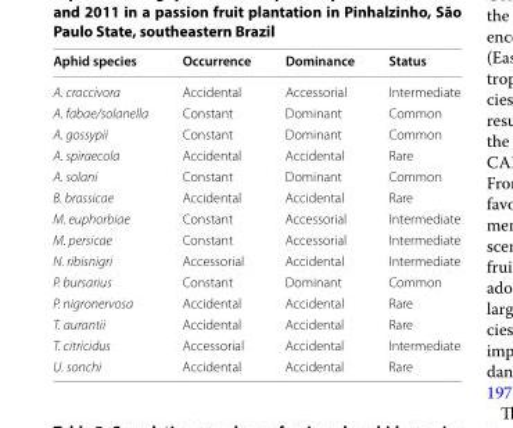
<table><thead><tr><td>Aphid species</td><td>Occurrence</td><td>Dominance</td><td>Status</td></tr></thead><tbody><tr><td>A. craccivora</td><td>Accidental</td><td>Accessorial</td><td>Intermediate</td></tr><tr><td>A. fabae/solanella</td><td>Constant</td><td>Dominant</td><td>Common</td></tr><tr><td>A. gossypii</td><td>Constant</td><td>Dominant</td><td>Common</td></tr><tr><td>A. spiraecola</td><td>Accidental</td><td>Accidental</td><td>Rare</td></tr><tr><td>A. solani</td><td>Constant</td><td>Dominant</td><td>Common</td></tr><tr><td>B. brassicae</td><td>Accidental</td><td>Accidental</td><td>Rare</td></tr><tr><td>M. euphorbiae</td><td>Constant</td><td>Accessorial</td><td>Intermediate</td></tr><tr><td>M. persicae</td><td>Constant</td><td>Accessorial</td><td>Intermediate</td></tr><tr><td>N. ribisnigri</td><td>Accessorial</td><td>Accidental</td><td>Intermediate</td></tr><tr><td>P. bursarius</td><td>Constant</td><td>Dominant</td><td>Common</td></tr><tr><td>P. nigronervosa</td><td>Accidental</td><td>Accidental</td><td>Rare</td></tr><tr><td>T. aurantii</td><td>Accidental</td><td>Accidental</td><td>Rare</td></tr><tr><td>T. citricidus</td><td>Accessorial</td><td>Accidental</td><td>Intermediate</td></tr><tr><td>U. sonchi</td><td>Accidental</td><td>Accidental</td><td>Rare</td></tr></tbody></table>